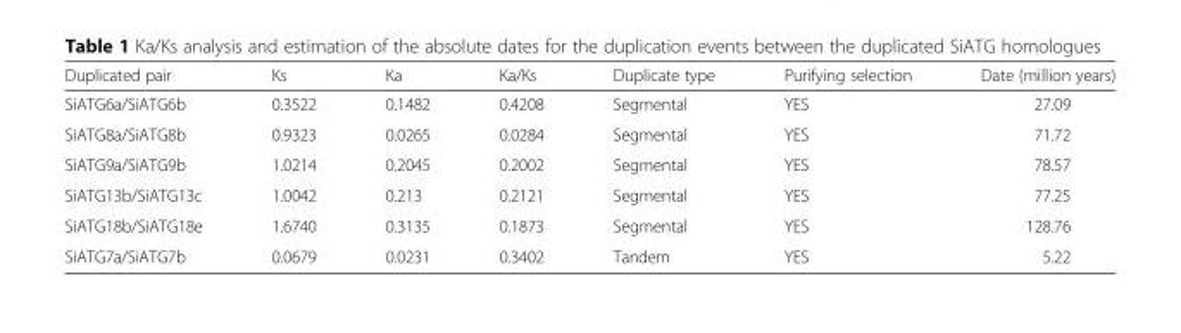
<table><thead><tr><td>Duplicated pair</td><td>Ks</td><td>Ka</td><td>Ka/Ks</td><td>Duplicate type</td><td>Purifying selection</td><td>Date (million years)</td></tr></thead><tbody><tr><td>SiATG6a/SiATG6b</td><td>0.3522</td><td>0.1482</td><td>0.4208</td><td>Segmental</td><td>YES</td><td>27.09</td></tr><tr><td>SiATG8a/SiATG8b</td><td>0.9323</td><td>0.0265</td><td>0.0284</td><td>Segmental</td><td>YES</td><td>71.72</td></tr><tr><td>SiATG9a/SiATG9b</td><td>1.0214</td><td>0.2045</td><td>0.2002</td><td>Segmental</td><td>YES</td><td>78.57</td></tr><tr><td>SiATG13b/SiATG13c</td><td>1.0042</td><td>0.213</td><td>0.2121</td><td>Segmental</td><td>YES</td><td>77.25</td></tr><tr><td>SiATG18b/SiATG18e</td><td>1.6740</td><td>0.3135</td><td>0.1873</td><td>Segmental</td><td>YES</td><td>128.76</td></tr><tr><td>SiATG7a/SiATG7b</td><td>0.0679</td><td>0.0231</td><td>0.3402</td><td>Tandem</td><td>YES</td><td>5.22</td></tr></tbody></table>